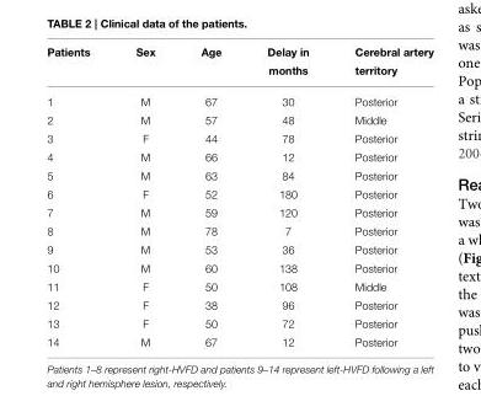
<table><thead><tr><td>Patients</td><td>Sex</td><td>Age</td><td>Delay in months</td><td>Cerebral artery territory</td></tr></thead><tbody><tr><td>1</td><td>M</td><td>67</td><td>30</td><td>Posterior</td></tr><tr><td>2</td><td>M</td><td>57</td><td>48</td><td>Middle</td></tr><tr><td>3</td><td>F</td><td>44</td><td>78</td><td>Posterior</td></tr><tr><td>4</td><td>M</td><td>66</td><td>12</td><td>Posterior</td></tr><tr><td>5</td><td>M</td><td>63</td><td>84</td><td>Posterior</td></tr><tr><td>6</td><td>F</td><td>52</td><td>180</td><td>Posterior</td></tr><tr><td>7</td><td>M</td><td>59</td><td>120</td><td>Posterior</td></tr><tr><td>8</td><td>M</td><td>78</td><td>7</td><td>Posterior</td></tr><tr><td>9</td><td>M</td><td>53</td><td>36</td><td>Posterior</td></tr><tr><td>10</td><td>M</td><td>60</td><td>138</td><td>Posterior</td></tr><tr><td>11</td><td>F</td><td>50</td><td>108</td><td>Middle</td></tr><tr><td>12</td><td>F</td><td>38</td><td>96</td><td>Posterior</td></tr><tr><td>13</td><td>F</td><td>50</td><td>72</td><td>Posterior</td></tr><tr><td>14</td><td>M</td><td>67</td><td>12</td><td>Posterior</td></tr></tbody></table>